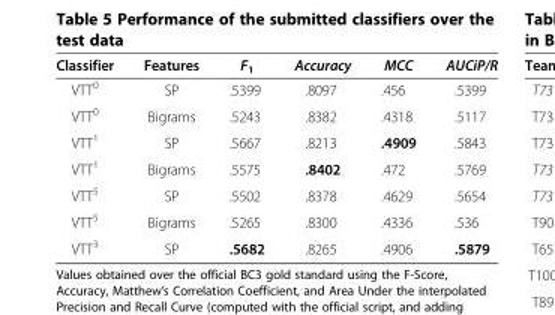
<table><thead><tr><td>Classifier</td><td>Features</td><td>F<sub>1</sub></td><td>Accuracy</td><td>MCC</td><td>AUCiP/R</td></tr></thead><tbody><tr><td>VTT<sup>0</sup></td><td>SP</td><td>.5399</td><td>.8097</td><td>.456</td><td>.5399</td></tr><tr><td>VTT<sup>0</sup></td><td>Bigrams</td><td>.5243</td><td>.8382</td><td>.4318</td><td>.5117</td></tr><tr><td>VTT<sup>1</sup></td><td>SP</td><td>.5667</td><td>.8213</td><td>.4909</td><td>.5843</td></tr><tr><td>VTT<sup>1</sup></td><td>Bigrams</td><td>.5575</td><td>.8402</td><td>.472</td><td>.5769</td></tr><tr><td>VTT<sup>5</sup></td><td>SP</td><td>.5502</td><td>.8378</td><td>.4629</td><td>.5654</td></tr><tr><td>VTT<sup>5</sup></td><td>Bigrams</td><td>.5265</td><td>.8300</td><td>.4336</td><td>.536</td></tr><tr><td>VTT<sup>3</sup></td><td>SP</td><td>.5682</td><td>.8265</td><td>.4906</td><td>.5879</td></tr></tbody></table>